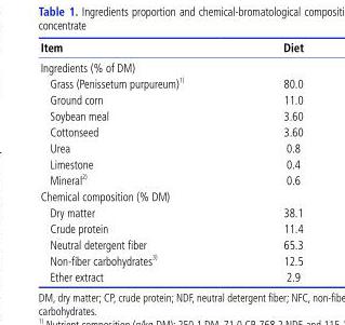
<table><thead><tr><td>Item</td><td>Diet</td></tr></thead><tbody><tr><td colspan="2">Ingredients (% of DM)</td></tr><tr><td>Grass (Penissetum purpureum) 1)</td><td>80.0</td></tr><tr><td>Ground corn</td><td>11.0</td></tr><tr><td>Soybean meal</td><td>3.60</td></tr><tr><td>Cottonseed</td><td>3.60</td></tr><tr><td>Urea</td><td>0.8</td></tr><tr><td>Limestone</td><td>0.4</td></tr><tr><td>Mineral 2)</td><td>0.6</td></tr><tr><td colspan="2">Chemical composition (% DM)</td></tr><tr><td>Dry matter</td><td>38.1</td></tr><tr><td>Crude protein</td><td>11.4</td></tr><tr><td>Neutral detergent fiber</td><td>65.3</td></tr><tr><td>Non-fiber carbohydrates 3)</td><td>12.5</td></tr><tr><td>Ether extract</td><td>2.9</td></tr></tbody></table>